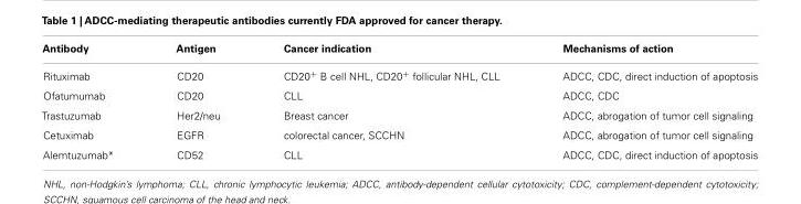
<table><thead><tr><td>Antibody</td><td>Antigen</td><td>Cancer indication</td><td>Mechanisms of action</td></tr></thead><tbody><tr><td>Rituximab</td><td>CD20</td><td>CD20<sup>+</sup> B cell NHL, CD20<sup>+</sup> follicular NHL, CLL</td><td>ADCC, CDC, direct induction of apoptosis</td></tr><tr><td>Ofatumumab</td><td>CD20</td><td>CLL</td><td>ADCC, CDC</td></tr><tr><td>Trastuzumab</td><td>Her2/neu</td><td>Breast cancer</td><td>ADCC, abrogation of tumor cell signaling</td></tr><tr><td>Cetuximab</td><td>EGFR</td><td>colorectal cancer, SCCHN</td><td>ADCC, abrogation of tumor cell signaling</td></tr><tr><td>Alemtuzumab*</td><td>CD52</td><td>CLL</td><td>ADCC, CDC, direct induction of apoptosis</td></tr></tbody></table>